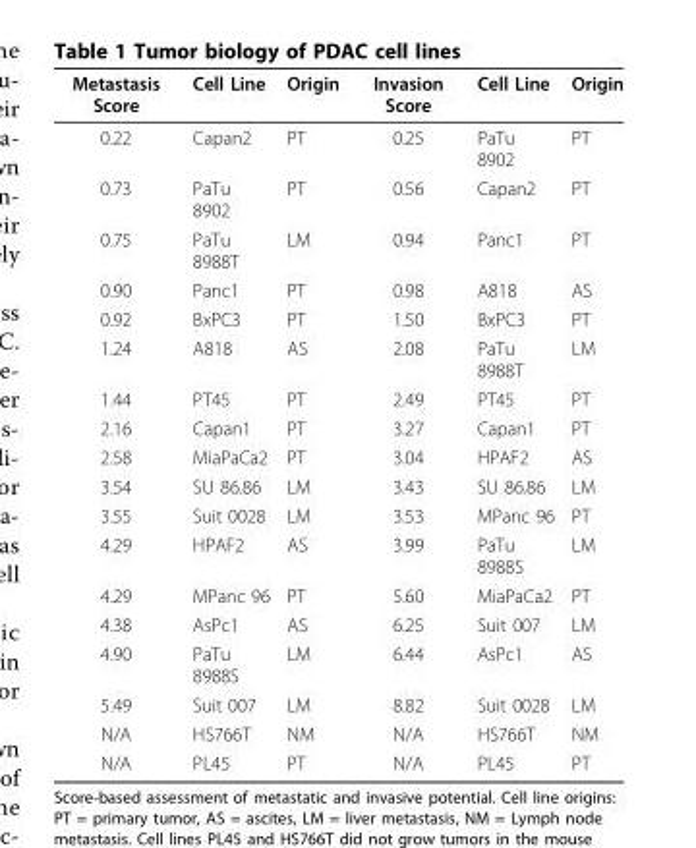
<table><thead><tr><td>Metastasis Score</td><td>Cell Line</td><td>Origin</td><td>Invasion Score</td><td>Cell Line</td><td>Origin</td></tr></thead><tbody><tr><td>0.22</td><td>Capan2</td><td>PT</td><td>0.25</td><td>PaTu 8902</td><td>PT</td></tr><tr><td>0.73</td><td>PaTu 8902</td><td>PT</td><td>0.56</td><td>Capan2</td><td>PT</td></tr><tr><td>0.75</td><td>PaTu 8988T</td><td>LM</td><td>0.94</td><td>Panc1</td><td>PT</td></tr><tr><td>0.90</td><td>Panc1</td><td>PT</td><td>0.98</td><td>A818</td><td>AS</td></tr><tr><td>0.92</td><td>BxPC3</td><td>PT</td><td>1.50</td><td>BxPC3</td><td>PT</td></tr><tr><td>1.24</td><td>A818</td><td>AS</td><td>2.08</td><td>PaTu 8988T</td><td>LM</td></tr><tr><td>1.44</td><td>PT45</td><td>PT</td><td>2.49</td><td>PT45</td><td>PT</td></tr><tr><td>2.16</td><td>Capan1</td><td>PT</td><td>3.27</td><td>Capan1</td><td>PT</td></tr><tr><td>2.58</td><td>MiaPaCa2</td><td>PT</td><td>3.04</td><td>HPAF2</td><td>AS</td></tr><tr><td>3.54</td><td>SU 86.86</td><td>LM</td><td>3.43</td><td>SU 86.86</td><td>LM</td></tr><tr><td>3.55</td><td>Suit 0028</td><td>LM</td><td>3.53</td><td>MPanc 96</td><td>PT</td></tr><tr><td>4.29</td><td>HPAF2</td><td>AS</td><td>3.99</td><td>PaTu 8988S</td><td>LM</td></tr><tr><td>4.29</td><td>MPanc 96</td><td>PT</td><td>5.60</td><td>MiaPaCa2</td><td>PT</td></tr><tr><td>4.38</td><td>AsPc1</td><td>AS</td><td>6.25</td><td>Suit 007</td><td>LM</td></tr><tr><td>4.90</td><td>PaTu 8988S</td><td>LM</td><td>6.44</td><td>AsPc1</td><td>AS</td></tr><tr><td>5.49</td><td>Suit 007</td><td>LM</td><td>8.82</td><td>Suit 0028</td><td>LM</td></tr><tr><td>N/A</td><td>HS766T</td><td>NM</td><td>N/A</td><td>HS766T</td><td>NM</td></tr><tr><td>N/A</td><td>PL45</td><td>PT</td><td>N/A</td><td>PL45</td><td>PT</td></tr></tbody></table>